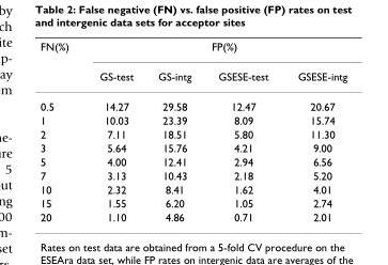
<table><thead><tr><td rowspan="2">FN(%)</td><td colspan="4">FP(%)</td></tr><tr><td>GS-test</td><td>GS-intg</td><td>GSESE-test</td><td>GSESE-intg</td></tr></thead><tbody><tr><td>0.5</td><td>14.27</td><td>29.58</td><td>12.47</td><td>20.67</td></tr><tr><td>1</td><td>10.03</td><td>23.39</td><td>8.09</td><td>15.74</td></tr><tr><td>2</td><td>7.11</td><td>18.51</td><td>5.80</td><td>11.30</td></tr><tr><td>3</td><td>5.64</td><td>15.76</td><td>4.21</td><td>9.00</td></tr><tr><td>5</td><td>4.00</td><td>12.41</td><td>2.94</td><td>6.56</td></tr><tr><td>7</td><td>3.13</td><td>10.43</td><td>2.18</td><td>5.20</td></tr><tr><td>10</td><td>2.32</td><td>8.41</td><td>1.62</td><td>4.01</td></tr><tr><td>15</td><td>1.55</td><td>6.20</td><td>1.05</td><td>2.74</td></tr><tr><td>20</td><td>1.10</td><td>4.86</td><td>0.71</td><td>2.01</td></tr></tbody></table>